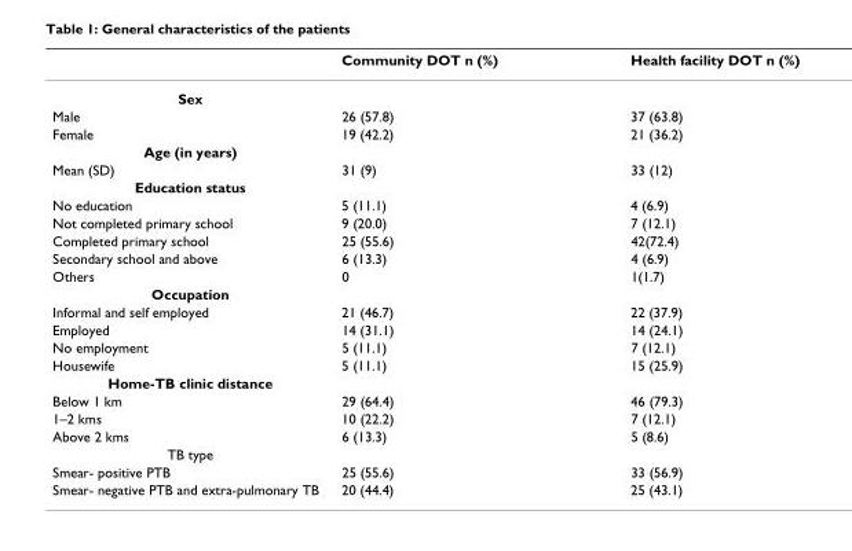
<table><thead><tr><td></td><td>Community DOT n (%)</td><td>Health facility DOT n (%)</td></tr></thead><tbody><tr><td colspan="3">Sex</td></tr><tr><td>Male</td><td>26 (57.8)</td><td>37 (63.8)</td></tr><tr><td>Female</td><td>19 (42.2)</td><td>21 (36.2)</td></tr><tr><td colspan="3">Age (in years)</td></tr><tr><td>Mean (SD)</td><td>31 (9)</td><td>33 (12)</td></tr><tr><td colspan="3">Education status</td></tr><tr><td>No education</td><td>5 (11.1)</td><td>4 (6.9)</td></tr><tr><td>Not completed primary school</td><td>9 (20.0)</td><td>7 (12.1)</td></tr><tr><td>Completed primary school</td><td>25 (55.6)</td><td>42(72.4)</td></tr><tr><td>Secondary school and above</td><td>6 (13.3)</td><td>4 (6.9)</td></tr><tr><td>Others</td><td>0</td><td>1(1.7)</td></tr><tr><td colspan="3">Occupation</td></tr><tr><td>Informal and self employed</td><td>21 (46.7)</td><td>22 (37.9)</td></tr><tr><td>Employed</td><td>14 (31.1)</td><td>14 (24.1)</td></tr><tr><td>No employment</td><td>5 (11.1)</td><td>7 (12.1)</td></tr><tr><td>Housewife</td><td>5 (11.1)</td><td>15 (25.9)</td></tr><tr><td colspan="3">Home-TB clinic distance</td></tr><tr><td>Below 1 km</td><td>29 (64.4)</td><td>46 (79.3)</td></tr><tr><td>1–2 kms</td><td>10 (22.2)</td><td>7 (12.1)</td></tr><tr><td>Above 2 kms</td><td>6 (13.3)</td><td>5 (8.6)</td></tr><tr><td colspan="3">TB type</td></tr><tr><td>Smear- positive PTB</td><td>25 (55.6)</td><td>33 (56.9)</td></tr><tr><td>Smear- negative PTB and extra-pulmonary TB</td><td>20 (44.4)</td><td>25 (43.1)</td></tr></tbody></table>